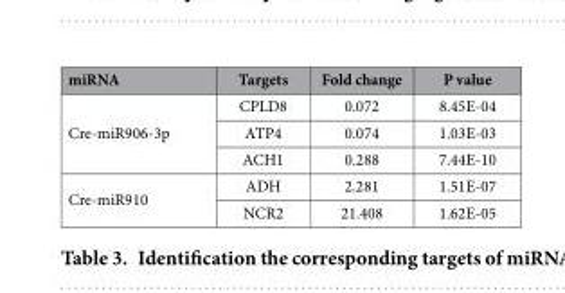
<table><thead><tr><td>miRNA</td><td>Targets</td><td>Fold change</td><td>P value</td></tr></thead><tbody><tr><td rowspan="3">Cre-miR906-3p</td><td>CPLD8</td><td>0.072</td><td>8.45E-04</td></tr><tr><td>ATP4</td><td>0.074</td><td>1.03E-03</td></tr><tr><td>ACH1</td><td>0.288</td><td>7.44E-10</td></tr><tr><td rowspan="2">Cre-miR910</td><td>ADH</td><td>2.281</td><td>1.51E-07</td></tr><tr><td>NCR2</td><td>21.408</td><td>1.62E-05</td></tr></tbody></table>